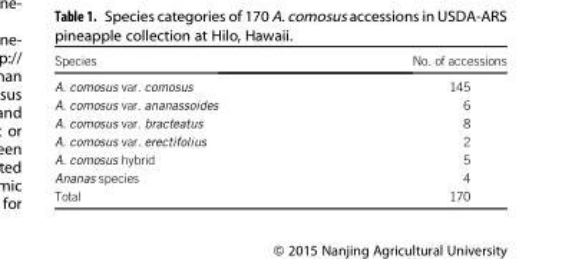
<table><thead><tr><td>Species</td><td>No. of accessions</td></tr></thead><tbody><tr><td>A. comosus var. comosus</td><td>145</td></tr><tr><td>A. comosus var. ananassoides</td><td>6</td></tr><tr><td>A. comosus var. bracteatus</td><td>8</td></tr><tr><td>A. comosus var. erectifolius</td><td>2</td></tr><tr><td>A. comosus hybrid</td><td>5</td></tr><tr><td>Ananas species</td><td>4</td></tr><tr><td>Total</td><td>170</td></tr></tbody></table>